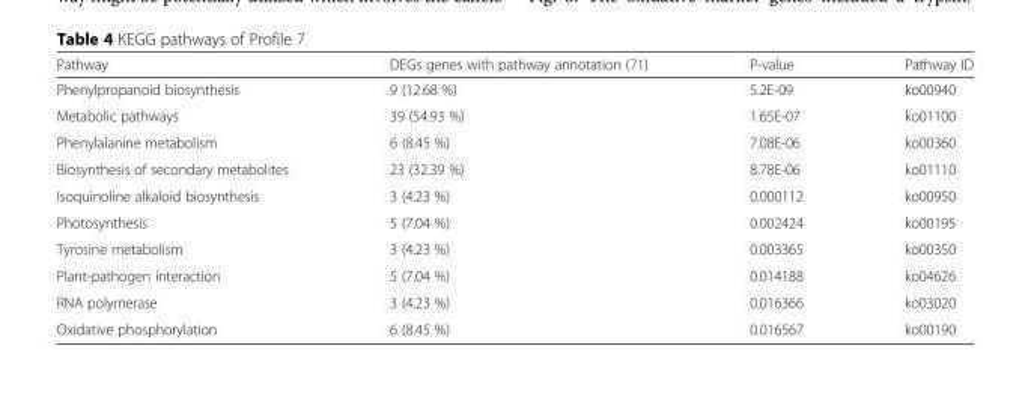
<table><thead><tr><td>Pathway</td><td>DEGs genes with pathway annotation (71)</td><td>P-value</td><td>Pathway ID</td></tr></thead><tbody><tr><td>Phenylpropanoid biosynthesis</td><td>9 (12.68 %)</td><td>5.2E-09</td><td>ko00940</td></tr><tr><td>Metabolic pathways</td><td>39 (54.93 %)</td><td>1.65E-07</td><td>ko01100</td></tr><tr><td>Phenylalanine metabolism</td><td>6 (8.45 %)</td><td>7.08E-06</td><td>ko00360</td></tr><tr><td>Biosynthesis of secondary metabolites</td><td>23 (32.39 %)</td><td>8.78E-06</td><td>ko01110</td></tr><tr><td>Isoquinoline alkaloid biosynthesis</td><td>3 (4.23 %)</td><td>0.000112</td><td>ko00950</td></tr><tr><td>Photosynthesis</td><td>5 (7.04 %)</td><td>0.002424</td><td>ko00195</td></tr><tr><td>Tyrosine metabolism</td><td>3 (4.23 %)</td><td>0.003365</td><td>ko00350</td></tr><tr><td>Plant-pathogen interaction</td><td>5 (7.04 %)</td><td>0.014188</td><td>ko04626</td></tr><tr><td>RNA polymerase</td><td>3 (4.23 %)</td><td>0.016366</td><td>ko03020</td></tr><tr><td>Oxidative phosphorylation</td><td>6 (8.45 %)</td><td>0.016567</td><td>ko00190</td></tr></tbody></table>